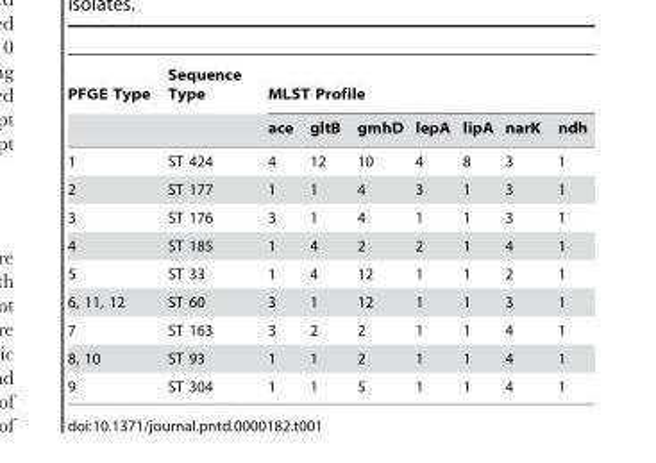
<table><thead><tr><td rowspan="2">PFGE Type</td><td rowspan="2">Sequence Type</td><td colspan="7">MLST Profile</td></tr><tr><td>ace</td><td>gltB</td><td>gmhD</td><td>lepA</td><td>lipA</td><td>narK</td><td>ndh</td></tr></thead><tbody><tr><td>1</td><td>ST 424</td><td>4</td><td>12</td><td>10</td><td>4</td><td>8</td><td>3</td><td>1</td></tr><tr><td>2</td><td>ST 177</td><td>1</td><td>1</td><td>4</td><td>3</td><td>1</td><td>3</td><td>1</td></tr><tr><td>3</td><td>ST 176</td><td>3</td><td>1</td><td>4</td><td>1</td><td>1</td><td>3</td><td>1</td></tr><tr><td>4</td><td>ST 185</td><td>1</td><td>4</td><td>2</td><td>2</td><td>1</td><td>4</td><td>1</td></tr><tr><td>5</td><td>ST 33</td><td>1</td><td>4</td><td>12</td><td>1</td><td>1</td><td>2</td><td>1</td></tr><tr><td>6, 11, 12</td><td>ST 60</td><td>3</td><td>1</td><td>12</td><td>1</td><td>1</td><td>3</td><td>1</td></tr><tr><td>7</td><td>ST 163</td><td>3</td><td>2</td><td>2</td><td>1</td><td>1</td><td>4</td><td>1</td></tr><tr><td>8, 10</td><td>ST 93</td><td>1</td><td>1</td><td>2</td><td>1</td><td>1</td><td>4</td><td>1</td></tr><tr><td>9</td><td>ST 304</td><td>1</td><td>1</td><td>5</td><td>1</td><td>1</td><td>4</td><td>1</td></tr></tbody></table>